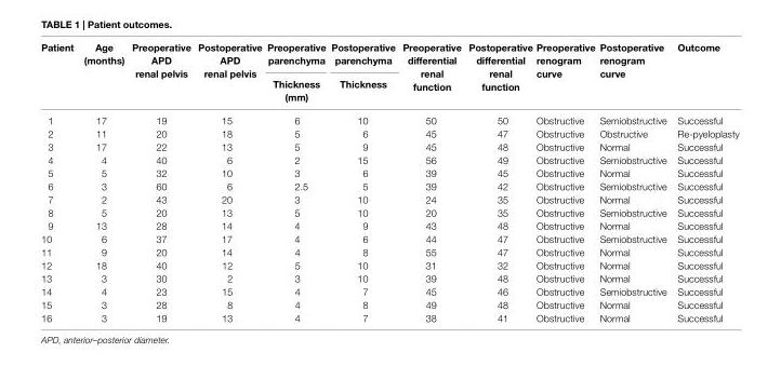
<table><thead><tr><td rowspan="2">Patient</td><td rowspan="2">age (months)</td><td rowspan="2">Preoperative aPD renal pelvis</td><td rowspan="2">Postoperative aPD renal pelvis</td><td rowspan="2">Preoperative parenchyma Thickness (mm)</td><td rowspan="2">Postoperative parenchyma Thickness</td><td rowspan="2">Preoperative differential renal function</td><td rowspan="2">Postoperative differential renal function</td><td rowspan="2">Preoperative renogram curve</td><td rowspan="2">Postoperative renogram curve</td><td rowspan="2">Outcome</td></tr><tr></tr></thead><tbody><tr><td>1</td><td>17</td><td>19</td><td>15</td><td>6</td><td>10</td><td>50</td><td>50</td><td>Obstructive</td><td>Semiobstructive</td><td>Successful</td></tr><tr><td>2</td><td>11</td><td>20</td><td>18</td><td>5</td><td>6</td><td>45</td><td>47</td><td>Obstructive</td><td>Obstructive</td><td>Re-pyeloplasty</td></tr><tr><td>3</td><td>17</td><td>22</td><td>13</td><td>5</td><td>9</td><td>45</td><td>48</td><td>Obstructive</td><td>Normal</td><td>Successful</td></tr><tr><td>4</td><td>4</td><td>40</td><td>6</td><td>2</td><td>15</td><td>56</td><td>49</td><td>Obstructive</td><td>Semiobstructive</td><td>Successful</td></tr><tr><td>5</td><td>5</td><td>32</td><td>10</td><td>3</td><td>6</td><td>39</td><td>45</td><td>Obstructive</td><td>Normal</td><td>Successful</td></tr><tr><td>6</td><td>3</td><td>60</td><td>6</td><td>2.5</td><td>5</td><td>39</td><td>42</td><td>Obstructive</td><td>Semiobstructive</td><td>Successful</td></tr><tr><td>7</td><td>2</td><td>43</td><td>20</td><td>3</td><td>10</td><td>24</td><td>35</td><td>Obstructive</td><td>Normal</td><td>Successful</td></tr><tr><td>8</td><td>5</td><td>20</td><td>13</td><td>5</td><td>10</td><td>20</td><td>35</td><td>Obstructive</td><td>Semiobstructive</td><td>Successful</td></tr><tr><td>9</td><td>13</td><td>28</td><td>14</td><td>4</td><td>9</td><td>43</td><td>48</td><td>Obstructive</td><td>Normal</td><td>Successful</td></tr><tr><td>10</td><td>6</td><td>37</td><td>17</td><td>4</td><td>6</td><td>44</td><td>47</td><td>Obstructive</td><td>Semiobstructive</td><td>Successful</td></tr><tr><td>11</td><td>9</td><td>20</td><td>14</td><td>4</td><td>8</td><td>55</td><td>47</td><td>Obstructive</td><td>Normal</td><td>Successful</td></tr><tr><td>12</td><td>18</td><td>40</td><td>12</td><td>5</td><td>10</td><td>31</td><td>32</td><td>Obstructive</td><td>Normal</td><td>Successful</td></tr><tr><td>13</td><td>3</td><td>30</td><td>2</td><td>3</td><td>10</td><td>39</td><td>48</td><td>Obstructive</td><td>Normal</td><td>Successful</td></tr><tr><td>14</td><td>4</td><td>23</td><td>15</td><td>4</td><td>7</td><td>45</td><td>46</td><td>Obstructive</td><td>Semiobstructive</td><td>Successful</td></tr><tr><td>15</td><td>3</td><td>28</td><td>8</td><td>4</td><td>8</td><td>49</td><td>48</td><td>Obstructive</td><td>Normal</td><td>Successful</td></tr><tr><td>16</td><td>3</td><td>19</td><td>13</td><td>4</td><td>7</td><td>38</td><td>41</td><td>Obstructive</td><td>Normal</td><td>Successful</td></tr></tbody></table>